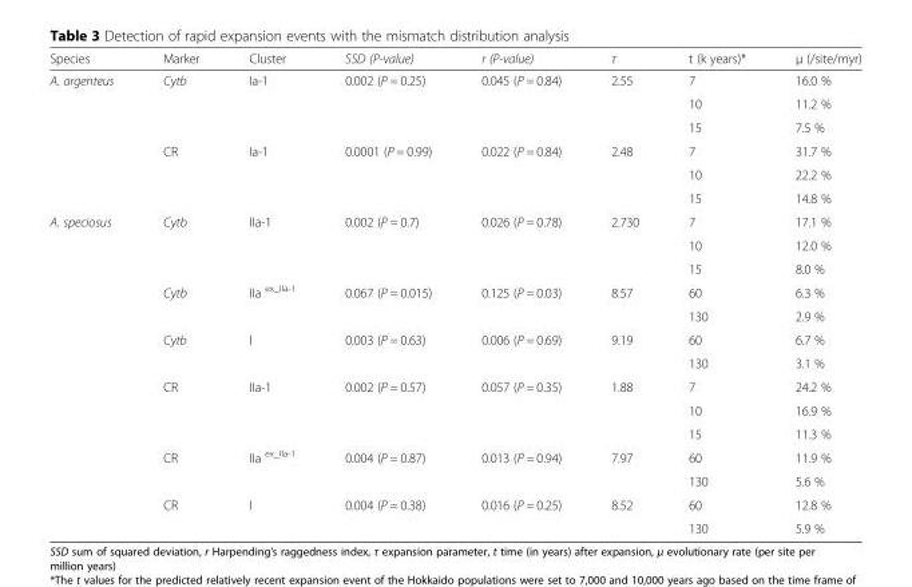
<table><thead><tr><td>Species</td><td>Marker</td><td>Cluster</td><td>SSD (P-value)</td><td>r (P-value)</td><td>τ</td><td>t (k years)*</td><td>μ (/site/myr)</td></tr></thead><tbody><tr><td rowspan="6">A. argenteus</td><td>Cytb</td><td>Ia-1</td><td>0.002 (P = 0.25)</td><td>0.045 (P = 0.84)</td><td>2.55</td><td>7</td><td>16.0 %</td></tr><tr><td></td><td></td><td></td><td></td><td></td><td>10</td><td>11.2 %</td></tr><tr><td></td><td></td><td></td><td></td><td></td><td>15</td><td>7.5 %</td></tr><tr><td>CR</td><td>Ia-1</td><td>0.0001 (P = 0.99)</td><td>0.022 (P = 0.84)</td><td>2.48</td><td>7</td><td>31.7 %</td></tr><tr><td></td><td></td><td></td><td></td><td></td><td>10</td><td>22.2 %</td></tr><tr><td></td><td></td><td></td><td></td><td></td><td>15</td><td>14.8 %</td></tr><tr><td rowspan="14">A. speciosus</td><td>Cytb</td><td>IIa-1</td><td>0.002 (P = 0.7)</td><td>0.026 (P = 0.78)</td><td>2.730</td><td>7</td><td>17.1 %</td></tr><tr><td></td><td></td><td></td><td></td><td></td><td>10</td><td>12.0 %</td></tr><tr><td></td><td></td><td></td><td></td><td></td><td>15</td><td>8.0 %</td></tr><tr><td>Cytb</td><td>IIa <sup>ex_IIa-1</sup></td><td>0.067 (P = 0.015)</td><td>0.125 (P = 0.03)</td><td>8.57</td><td>60</td><td>6.3 %</td></tr><tr><td></td><td></td><td></td><td></td><td></td><td>130</td><td>2.9 %</td></tr><tr><td>Cytb</td><td>I</td><td>0.003 (P = 0.63)</td><td>0.006 (P = 0.69)</td><td>9.19</td><td>60</td><td>6.7 %</td></tr><tr><td></td><td></td><td></td><td></td><td></td><td>130</td><td>3.1 %</td></tr><tr><td>CR</td><td>IIa-1</td><td>0.002 (P = 0.57)</td><td>0.057 (P = 0.35)</td><td>1.88</td><td>7</td><td>24.2 %</td></tr><tr><td></td><td></td><td></td><td></td><td></td><td>10</td><td>16.9 %</td></tr><tr><td></td><td></td><td></td><td></td><td></td><td>15</td><td>11.3 %</td></tr><tr><td>CR</td><td>IIa <sup>ex_IIa-1</sup></td><td>0.004 (P = 0.87)</td><td>0.013 (P = 0.94)</td><td>7.97</td><td>60</td><td>11.9 %</td></tr><tr><td></td><td></td><td></td><td></td><td></td><td>130</td><td>5.6 %</td></tr><tr><td>CR</td><td>I</td><td>0.004 (P = 0.38)</td><td>0.016 (P = 0.25)</td><td>8.52</td><td>60</td><td>12.8 %</td></tr><tr><td></td><td></td><td></td><td></td><td></td><td>130</td><td>5.9 %</td></tr></tbody></table>